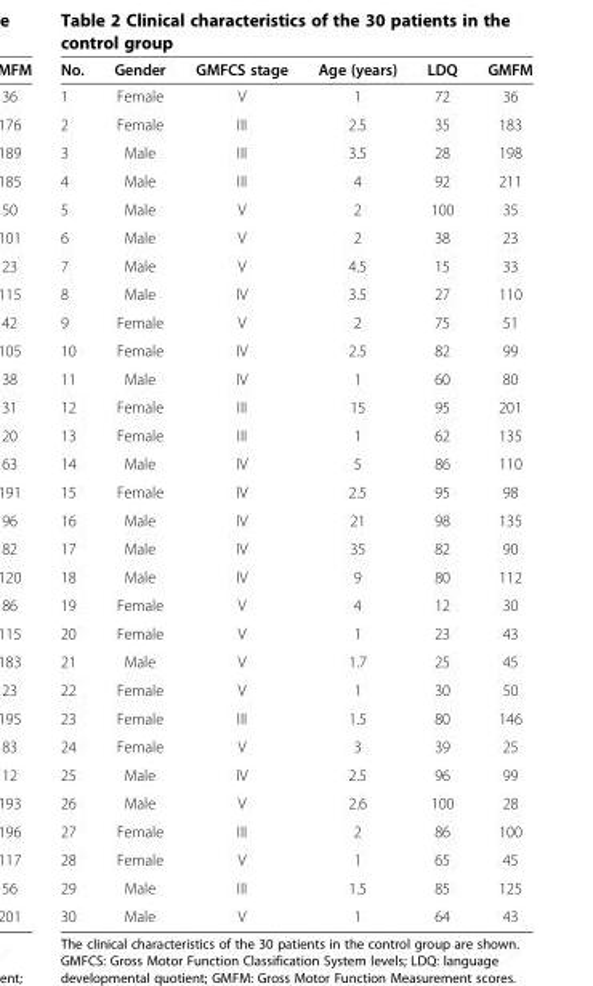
<table><thead><tr><td>No.</td><td>Gender</td><td>GMFCS stage</td><td>Age (years)</td><td>LDQ</td><td>GMFM</td></tr></thead><tbody><tr><td>1</td><td>Female</td><td>V</td><td>1</td><td>72</td><td>36</td></tr><tr><td>2</td><td>Female</td><td>III</td><td>2.5</td><td>35</td><td>183</td></tr><tr><td>3</td><td>Male</td><td>III</td><td>3.5</td><td>28</td><td>198</td></tr><tr><td>4</td><td>Male</td><td>III</td><td>4</td><td>92</td><td>211</td></tr><tr><td>5</td><td>Male</td><td>V</td><td>2</td><td>100</td><td>35</td></tr><tr><td>6</td><td>Male</td><td>V</td><td>2</td><td>38</td><td>23</td></tr><tr><td>7</td><td>Male</td><td>V</td><td>4.5</td><td>15</td><td>33</td></tr><tr><td>8</td><td>Male</td><td>IV</td><td>3.5</td><td>27</td><td>110</td></tr><tr><td>9</td><td>Female</td><td>V</td><td>2</td><td>75</td><td>51</td></tr><tr><td>10</td><td>Female</td><td>IV</td><td>2.5</td><td>82</td><td>99</td></tr><tr><td>11</td><td>Male</td><td>IV</td><td>1</td><td>60</td><td>80</td></tr><tr><td>12</td><td>Female</td><td>III</td><td>15</td><td>95</td><td>201</td></tr><tr><td>13</td><td>Female</td><td>III</td><td>1</td><td>62</td><td>135</td></tr><tr><td>14</td><td>Male</td><td>IV</td><td>5</td><td>86</td><td>110</td></tr><tr><td>15</td><td>Female</td><td>IV</td><td>2.5</td><td>95</td><td>98</td></tr><tr><td>16</td><td>Male</td><td>IV</td><td>21</td><td>98</td><td>135</td></tr><tr><td>17</td><td>Male</td><td>IV</td><td>35</td><td>82</td><td>90</td></tr><tr><td>18</td><td>Male</td><td>IV</td><td>9</td><td>80</td><td>112</td></tr><tr><td>19</td><td>Female</td><td>V</td><td>4</td><td>12</td><td>30</td></tr><tr><td>20</td><td>Female</td><td>V</td><td>1</td><td>23</td><td>43</td></tr><tr><td>21</td><td>Male</td><td>V</td><td>1.7</td><td>25</td><td>45</td></tr><tr><td>22</td><td>Female</td><td>V</td><td>1</td><td>30</td><td>50</td></tr><tr><td>23</td><td>Female</td><td>III</td><td>1.5</td><td>80</td><td>146</td></tr><tr><td>24</td><td>Female</td><td>V</td><td>3</td><td>39</td><td>25</td></tr><tr><td>25</td><td>Male</td><td>IV</td><td>2.5</td><td>96</td><td>99</td></tr><tr><td>26</td><td>Male</td><td>V</td><td>2.6</td><td>100</td><td>28</td></tr><tr><td>27</td><td>Female</td><td>III</td><td>2</td><td>86</td><td>100</td></tr><tr><td>28</td><td>Female</td><td>V</td><td>1</td><td>65</td><td>45</td></tr><tr><td>29</td><td>Male</td><td>III</td><td>1.5</td><td>85</td><td>125</td></tr><tr><td>30</td><td>Male</td><td>V</td><td>1</td><td>64</td><td>43</td></tr></tbody></table>